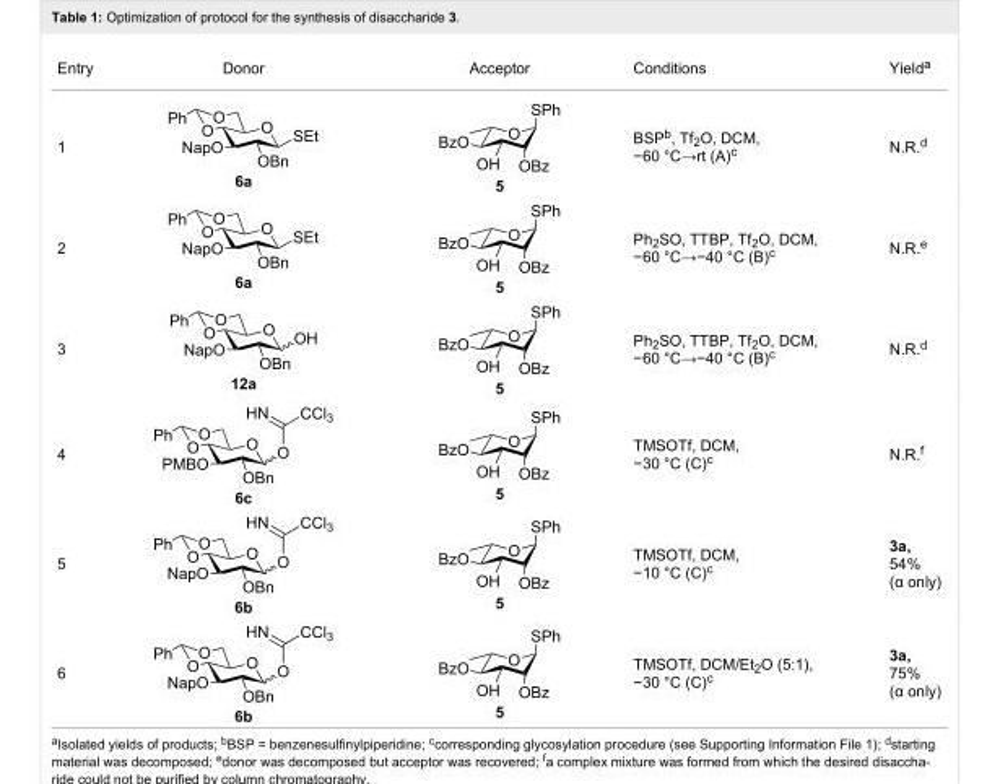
<table><tbody><tr><td>Entry</td><td>Donor</td><td>Acceptor</td><td>Conditions</td><td>Yield<sup>a</sup></td></tr><tr><td>1</td><td>6a</td><td>5</td><td>BSP<sup>b</sup>, Tf<sub>2</sub>O, DCM, −60 °C→rt (A)<sup>c</sup></td><td>N.R.<sup>d</sup></td></tr><tr><td>2</td><td>6a</td><td>5</td><td>Ph<sub>2</sub>SO, TTBP, Tf<sub>2</sub>O, DCM, −60 °C→−40 °C (B)<sup>c</sup></td><td>N.R.<sup>e</sup></td></tr><tr><td>3</td><td>12a</td><td>5</td><td>Ph<sub>2</sub>SO, TTBP, Tf<sub>2</sub>O, DCM, −60 °C→−40 °C (B)<sup>c</sup></td><td>N.R.<sup>d</sup></td></tr><tr><td>4</td><td>6c</td><td>5</td><td>TMSOTf, DCM, −30 °C (C)<sup>c</sup></td><td>N.R.<sup>f</sup></td></tr><tr><td>5</td><td>6b</td><td>5</td><td>TMSOTf, DCM, −10 °C (C)<sup>c</sup></td><td>3a, 54% (α only)</td></tr><tr><td>6</td><td>6b</td><td>5</td><td>TMSOTf, DCM/Et<sub>2</sub>O (5:1), −30 °C (C)<sup>c</sup></td><td>3a, 75% (α only)</td></tr></tbody></table>